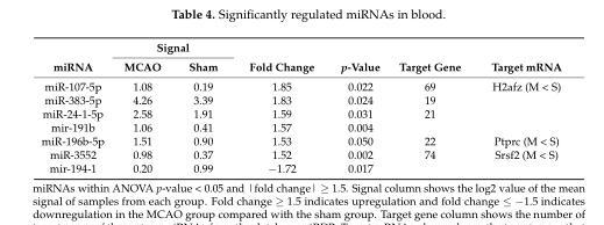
<table><thead><tr><td rowspan="2">miRNA</td><td colspan="2">Signal</td><td rowspan="2">Fold Change</td><td rowspan="2">p-Value</td><td rowspan="2">Target Gene</td><td rowspan="2">Target mRNA</td></tr><tr><td>MCAO</td><td>Sham</td></tr></thead><tbody><tr><td>miR-107-5p</td><td>1.08</td><td>0.19</td><td>1.85</td><td>0.022</td><td>69</td><td>H2afz (M &lt; S)</td></tr><tr><td>miR-383-5p</td><td>4.26</td><td>3.39</td><td>1.83</td><td>0.024</td><td>19</td><td></td></tr><tr><td>miR-24-1-5p</td><td>2.58</td><td>1.91</td><td>1.59</td><td>0.031</td><td>21</td><td></td></tr><tr><td>mir-191b</td><td>1.06</td><td>0.41</td><td>1.57</td><td>0.004</td><td></td><td></td></tr><tr><td>miR-196b-5p</td><td>1.51</td><td>0.90</td><td>1.53</td><td>0.050</td><td>22</td><td>Ptprc (M &lt; S)</td></tr><tr><td>miR-3552</td><td>0.98</td><td>0.37</td><td>1.52</td><td>0.002</td><td>74</td><td>Srsf2 (M &lt; S)</td></tr><tr><td>mir-194-1</td><td>0.20</td><td>0.99</td><td>−1.72</td><td>0.017</td><td></td><td></td></tr></tbody></table>